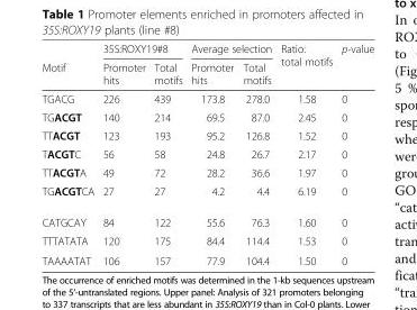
<table><thead><tr><td rowspan="2">Motif</td><td colspan="2">35S:ROXY19#8</td><td colspan="2">Average selection</td><td rowspan="2">Ratio: total motifs</td><td rowspan="2">p-value</td></tr><tr><td>Promoter hits</td><td>Total motifs</td><td>Promoter hits</td><td>Total motifs</td></tr></thead><tbody><tr><td>TGACG</td><td>226</td><td>439</td><td>173.8</td><td>278.0</td><td>1.58</td><td>0</td></tr><tr><td>TGACGT</td><td>140</td><td>214</td><td>69.5</td><td>87.0</td><td>2.45</td><td>0</td></tr><tr><td>TTACGT</td><td>123</td><td>193</td><td>95.2</td><td>126.8</td><td>1.52</td><td>0</td></tr><tr><td>TACGTC</td><td>56</td><td>58</td><td>24.8</td><td>26.7</td><td>2.17</td><td>0</td></tr><tr><td>TTACGTA</td><td>49</td><td>72</td><td>28.2</td><td>36.6</td><td>1.97</td><td>0</td></tr><tr><td>TGACGTCA</td><td>27</td><td>27</td><td>4.2</td><td>4.4</td><td>6.19</td><td>0</td></tr><tr><td>CATGCAY</td><td>84</td><td>122</td><td>55.6</td><td>76.3</td><td>1.60</td><td>0</td></tr><tr><td>TTTATATA</td><td>120</td><td>175</td><td>84.4</td><td>114.4</td><td>1.53</td><td>0</td></tr><tr><td>TAAAATAT</td><td>106</td><td>157</td><td>77.9</td><td>104.4</td><td>1.50</td><td>0</td></tr></tbody></table>